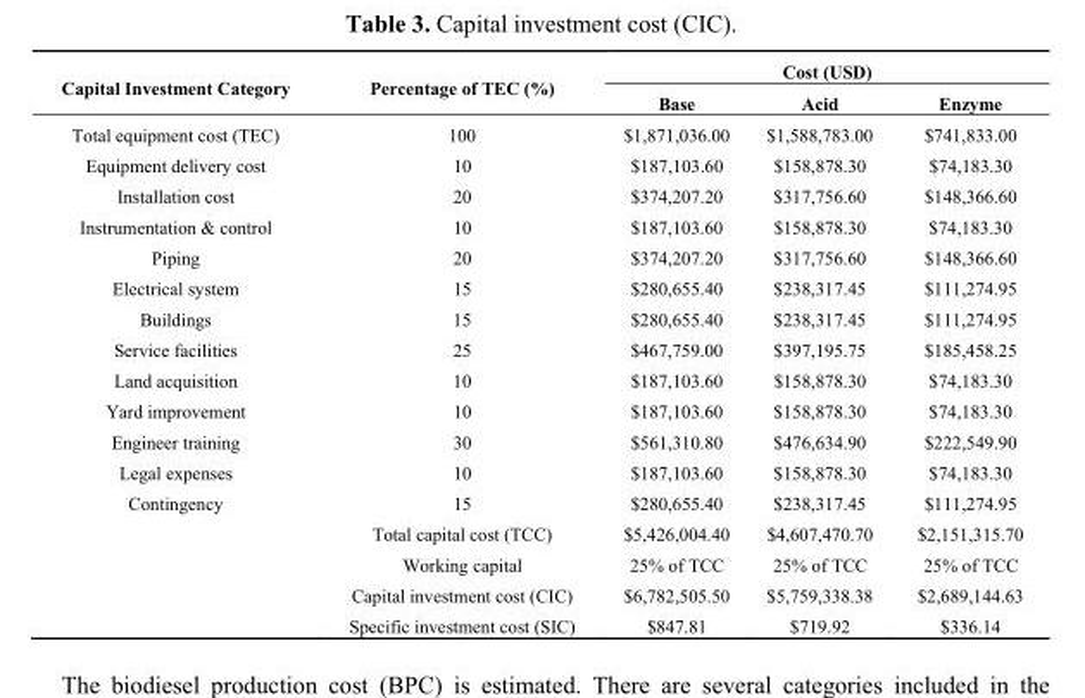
<table><thead><tr><td rowspan="2">Capital Investment Category</td><td rowspan="2">Percentage of TEC (%)</td><td colspan="3">Cost (USD)</td></tr><tr><td>Base</td><td>Acid</td><td>Enzyme</td></tr></thead><tbody><tr><td>Total equipment cost (TEC)</td><td>100</td><td>$1,871,036.00</td><td>$1,588,783.00</td><td>$741,833.00</td></tr><tr><td>Equipment delivery cost</td><td>10</td><td>$187,103.60</td><td>$158,878.30</td><td>$74,183.30</td></tr><tr><td>Installation cost</td><td>20</td><td>$374,207.20</td><td>$317,756.60</td><td>$148,366.60</td></tr><tr><td>Instrumentation &amp; control</td><td>10</td><td>$187,103.60</td><td>$158,878.30</td><td>$74,183.30</td></tr><tr><td>Piping</td><td>20</td><td>$374,207.20</td><td>$317,756.60</td><td>$148,366.60</td></tr><tr><td>Electrical system</td><td>15</td><td>$280,655.40</td><td>$238,317.45</td><td>$111,274.95</td></tr><tr><td>Buildings</td><td>15</td><td>$280,655.40</td><td>$238,317.45</td><td>$111,274.95</td></tr><tr><td>Service facilities</td><td>25</td><td>$467,759.00</td><td>$397,195.75</td><td>$185,458.25</td></tr><tr><td>Land acquisition</td><td>10</td><td>$187,103.60</td><td>$158,878.30</td><td>$74,183.30</td></tr><tr><td>Yard improvement</td><td>10</td><td>$187,103.60</td><td>$158,878.30</td><td>$74,183.30</td></tr><tr><td>Engineer training</td><td>30</td><td>$561,310.80</td><td>$476,634.90</td><td>$222,549.90</td></tr><tr><td>Legal expenses</td><td>10</td><td>$187,103.60</td><td>$158,878.30</td><td>$74,183.30</td></tr><tr><td rowspan="5">Contingency</td><td>15</td><td>$280,655.40</td><td>$238,317.45</td><td>$111,274.95</td></tr><tr><td>Total capital cost (TCC)</td><td>$5,426,004.40</td><td>$4,607,470.70</td><td>$2,151,315.70</td></tr><tr><td>Working capital</td><td>25% of TCC</td><td>25% of TCC</td><td>25% of TCC</td></tr><tr><td>Capital investment cost (CIC)</td><td>$6,782,505.50</td><td>$5,759,338.38</td><td>$2,689,144.63</td></tr><tr><td>Specific investment cost (SIC)</td><td>$847.81</td><td>$719.92</td><td>$336.14</td></tr></tbody></table>